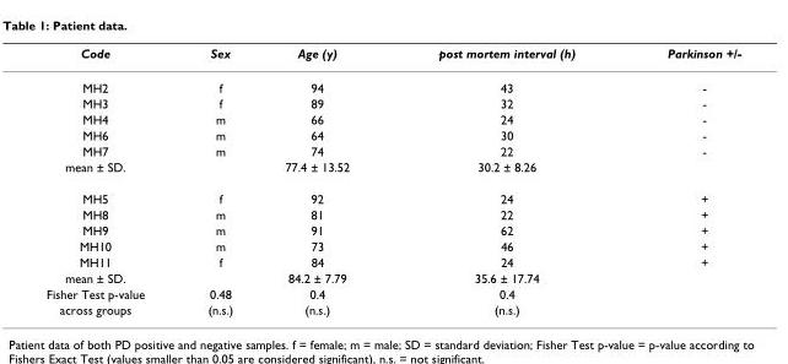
<table><thead><tr><td>Code</td><td>Sex</td><td>Age (y)</td><td>post mortem interval (h)</td><td>Parkinson +/-</td></tr></thead><tbody><tr><td>MH2</td><td>f</td><td>94</td><td>43</td><td>-</td></tr><tr><td>MH3</td><td>f</td><td>89</td><td>32</td><td>-</td></tr><tr><td>MH4</td><td>m</td><td>66</td><td>24</td><td>-</td></tr><tr><td>MH6</td><td>m</td><td>64</td><td>30</td><td>-</td></tr><tr><td>MH7</td><td>m</td><td>74</td><td>22</td><td>-</td></tr><tr><td>mean ± SD.</td><td></td><td>77.4 ± 13.52</td><td>30.2 ± 8.26</td><td></td></tr><tr><td>MH5</td><td>f</td><td>92</td><td>24</td><td>+</td></tr><tr><td>MH8</td><td>m</td><td>81</td><td>22</td><td>+</td></tr><tr><td>MH9</td><td>m</td><td>91</td><td>62</td><td>+</td></tr><tr><td>MH10</td><td>m</td><td>73</td><td>46</td><td>+</td></tr><tr><td>MH11</td><td>f</td><td>84</td><td>24</td><td>+</td></tr><tr><td>mean ± SD.</td><td></td><td>84.2 ± 7.79</td><td>35.6 ± 17.74</td><td></td></tr><tr><td>Fisher Test p-value</td><td>0.48</td><td>0.4</td><td>0.4</td><td></td></tr><tr><td>across groups</td><td>(n.s.)</td><td>(n.s.)</td><td>(n.s.)</td><td></td></tr></tbody></table>